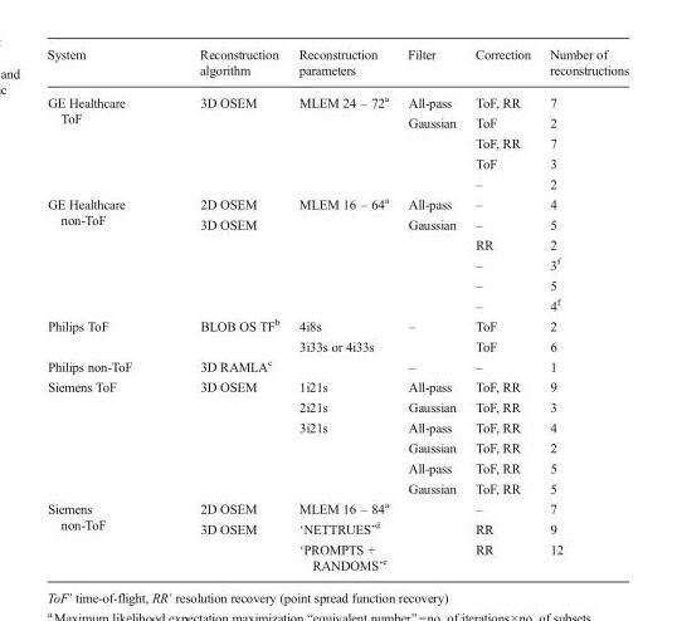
<table><thead><tr><td>System</td><td>Reconstruction algorithm</td><td>Reconstruction parameters</td><td>Filter</td><td>Correction</td><td>Number of reconstructions</td></tr></thead><tbody><tr><td>GE Healthcare ToF</td><td>3D OSEM</td><td>MLEM 24 – 72<sup>a</sup></td><td>All-pass Gaussian</td><td>ToF, RR ToF ToF, RR ToF –</td><td>7 2 7 3 2</td></tr><tr><td>GE Healthcare non-ToF</td><td>2D OSEM 3D OSEM</td><td>MLEM 16 – 64<sup>a</sup></td><td>All-pass Gaussian</td><td>– – RR – – –</td><td>4 5 2 3<sup>f</sup> 5 4<sup>f</sup></td></tr><tr><td>Philips ToF</td><td>BLOB OS TF<sup>b</sup></td><td>4i8s 3i33s or 4i33s</td><td>–</td><td>ToF ToF</td><td>2 6</td></tr><tr><td>Philips non-ToF</td><td>3D RAMLA<sup>c</sup></td><td></td><td>–</td><td>–</td><td>1</td></tr><tr><td>Siemens ToF</td><td>3D OSEM</td><td>1i21s 2i21s 3i21s</td><td>All-pass Gaussian All-pass Gaussian All-pass Gaussian</td><td>ToF, RR ToF, RR ToF, RR ToF, RR ToF, RR ToF, RR</td><td>9 3 4 2 5 5</td></tr><tr><td>Siemens non-ToF</td><td>2D OSEM 3D OSEM</td><td>MLEM 16 – 84<sup>a</sup> ‘NETTRUES’<sup>d</sup> ‘PROMPTS + RANDOMS’<sup>e</sup></td><td></td><td>– RR RR</td><td>7 9 12</td></tr></tbody></table>